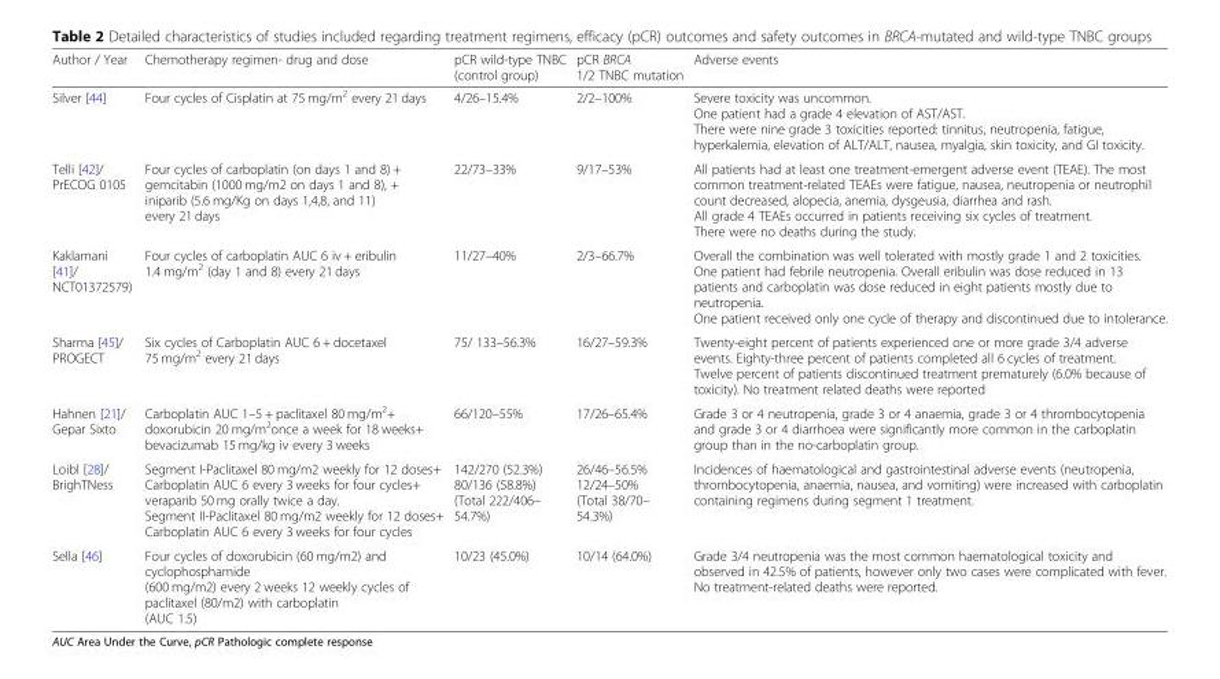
<table><thead><tr><td>Author / Year</td><td>Chemotherapy regimen- drug and dose</td><td>pCR wild-type TNBC (control group)</td><td>pCR BRCA 1/2 TNBC mutation</td><td>Adverse events</td></tr></thead><tbody><tr><td>Silver [44]</td><td>Four cycles of Cisplatin at 75 mg/m<sup>2</sup> every 21 days</td><td>4/26–15.4%</td><td>2/2–100%</td><td>Severe toxicity was uncommon. One patient had a grade 4 elevation of AST/AST. There were nine grade 3 toxicities reported: tinnitus, neutropenia, fatigue, hyperkalemia, elevation of ALT/ALT, nausea, myalgia, skin toxicity, and GI toxicity.</td></tr><tr><td>Telli [42]/ PrECOG 0105</td><td>Four cycles of carboplatin (on days 1 and 8) + gemcitabin (1000 mg/m2 on days 1 and 8), + iniparib (5.6 mg/Kg on days 1,4,8, and 11) every 21 days</td><td>22/73–33%</td><td>9/17–53%</td><td>All patients had at least one treatment-emergent adverse event (TEAE). The most common treatment-related TEAEs were fatigue, nausea, neutropenia or neutrophil count decreased, alopecia, anemia, dysgeusia, diarrhea and rash. All grade 4 TEAEs occurred in patients receiving six cycles of treatment. There were no deaths during the study.</td></tr><tr><td>Kaklamani [41]/ NCT01372579)</td><td>Four cycles of carboplatin AUC 6 iv + eribulin 1.4 mg/m<sup>2</sup> (day 1 and 8) every 21 days</td><td>11/27–40%</td><td>2/3–66.7%</td><td>Overall the combination was well tolerated with mostly grade 1 and 2 toxicities. One patient had febrile neutropenia. Overall eribulin was dose reduced in 13 patients and carboplatin was dose reduced in eight patients mostly due to neutropenia. One patient received only one cycle of therapy and discontinued due to intolerance.</td></tr><tr><td>Sharma [45]/ PROGECT</td><td>Six cycles of Carboplatin AUC 6 + docetaxel 75 mg/m<sup>2</sup> every 21 days</td><td>75/ 133–56.3%</td><td>16/27–59.3%</td><td>Twenty-eight percent of patients experienced one or more grade 3/4 adverse events. Eighty-three percent of patients completed all 6 cycles of treatment. Twelve percent of patients discontinued treatment prematurely (6.0% because of toxicity). No treatment related deaths were reported</td></tr><tr><td>Hahnen [21]/ Gepar Sixto</td><td>Carboplatin AUC 1–5 + paclitaxel 80 mg/m<sup>2</sup>+ doxorubicin 20 mg/m<sup>2</sup>once a week for 18 weeks+ bevacizumab 15 mg/kg iv every 3 weeks</td><td>66/120–55%</td><td>17/26–65.4%</td><td>Grade 3 or 4 neutropenia, grade 3 or 4 anaemia, grade 3 or 4 thrombocytopenia and grade 3 or 4 diarrhoea were significantly more common in the carboplatin group than in the no-carboplatin group.</td></tr><tr><td>Loibl [28]/ BrighTNess</td><td>Segment I-Paclitaxel 80 mg/m2 weekly for 12 doses+ Carboplatin AUC 6 every 3 weeks for four cycles+ veraparib 50 mg orally twice a day. Segment II-Paclitaxel 80 mg/m2 weekly for 12 doses+ Carboplatin AUC 6 every 3 weeks for four cycles</td><td>142/270 (52.3%) 80/136 (58.8%) (Total 222/406– 54.7%)</td><td>26/46–56.5% 12/24–50% (Total 38/70– 54.3%)</td><td>Incidences of haematological and gastrointestinal adverse events (neutropenia, thrombocytopenia, anaemia, nausea, and vomiting) were increased with carboplatin containing regimens during segment 1 treatment.</td></tr><tr><td>Sella [46]</td><td>Four cycles of doxorubicin (60 mg/m2) and cyclophosphamide (600 mg/m2) every 2 weeks 12 weekly cycles of paclitaxel (80/m2) with carboplatin (AUC 1.5)</td><td>10/23 (45.0%)</td><td>10/14 (64.0%)</td><td>Grade 3/4 neutropenia was the most common haematological toxicity and observed in 42.5% of patients, however only two cases were complicated with fever. No treatment-related deaths were reported.</td></tr></tbody></table>